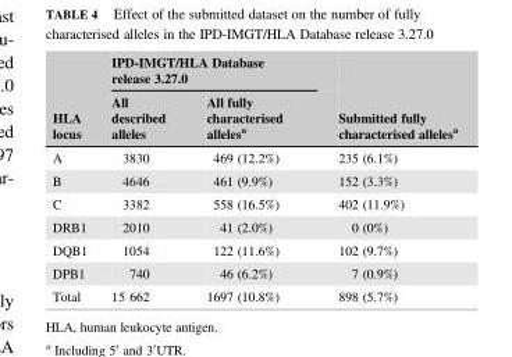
<table><thead><tr><td rowspan="2">HLA locus</td><td colspan="2">IPD-IMGT/HLA Database release 3.27.0</td><td rowspan="2">Submitted fully characterised alleles<sup>a</sup></td></tr><tr><td>All described alleles</td><td>All fully characterised alleles<sup>a</sup></td></tr></thead><tbody><tr><td>A</td><td>3830</td><td>469 (12.2%)</td><td>235 (6.1%)</td></tr><tr><td>B</td><td>4646</td><td>461 (9.9%)</td><td>152 (3.3%)</td></tr><tr><td>C</td><td>3382</td><td>558 (16.5%)</td><td>402 (11.9%)</td></tr><tr><td>DRB1</td><td>2010</td><td>41 (2.0%)</td><td>0 (0%)</td></tr><tr><td>DQB1</td><td>1054</td><td>122 (11.6%)</td><td>102 (9.7%)</td></tr><tr><td>DPB1</td><td>740</td><td>46 (6.2%)</td><td>7 (0.9%)</td></tr><tr><td>Total</td><td>15 662</td><td>1697 (10.8%)</td><td>898 (5.7%)</td></tr></tbody></table>